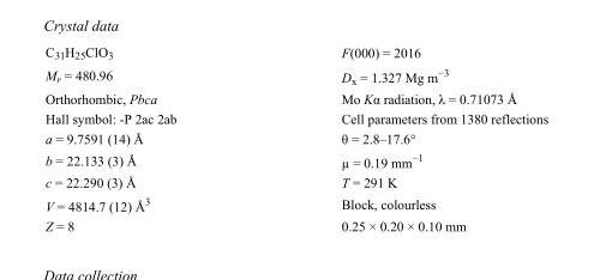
<table><tbody><tr><td>C<sub>31</sub>H<sub>25</sub>ClO<sub>3</sub></td><td>F(000) = 2016</td></tr><tr><td>M<sub>r</sub> = 480.96</td><td>D<sub>x</sub> = 1.327 Mg m<sup>−3</sup></td></tr><tr><td>Orthorhombic, Pbca</td><td>Mo Kα radiation, λ = 0.71073 Å</td></tr><tr><td>Hall symbol: -P 2ac 2ab</td><td>Cell parameters from 1380 reflections</td></tr><tr><td>a = 9.7591 (14) Å</td><td>θ = 2.8–17.6°</td></tr><tr><td>b = 22.133 (3) Å</td><td>µ = 0.19 mm<sup>−1</sup></td></tr><tr><td>c = 22.290 (3) Å</td><td>T = 291 K</td></tr><tr><td>V = 4814.7 (12) Å<sup>3</sup></td><td>Block, colourless</td></tr><tr><td>Z = 8</td><td>0.25 × 0.20 × 0.10 mm</td></tr></tbody></table>